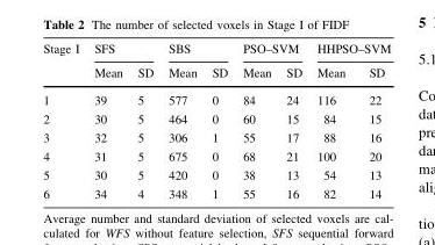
<table><thead><tr><td rowspan="2">Stage I</td><td colspan="2">SFS</td><td colspan="2">SBS</td><td colspan="2">PSO–SVM</td><td colspan="2">HHPSO–SVM</td></tr><tr><td>Mean</td><td>SD</td><td>Mean</td><td>SD</td><td>Mean</td><td>SD</td><td>Mean</td><td>SD</td></tr></thead><tbody><tr><td>1</td><td>39</td><td>5</td><td>577</td><td>0</td><td>84</td><td>24</td><td>116</td><td>22</td></tr><tr><td>2</td><td>30</td><td>5</td><td>464</td><td>0</td><td>60</td><td>15</td><td>84</td><td>15</td></tr><tr><td>3</td><td>32</td><td>5</td><td>306</td><td>1</td><td>55</td><td>17</td><td>88</td><td>16</td></tr><tr><td>4</td><td>31</td><td>5</td><td>675</td><td>0</td><td>68</td><td>21</td><td>100</td><td>20</td></tr><tr><td>5</td><td>30</td><td>5</td><td>420</td><td>0</td><td>38</td><td>13</td><td>54</td><td>13</td></tr><tr><td>6</td><td>34</td><td>4</td><td>348</td><td>1</td><td>55</td><td>16</td><td>82</td><td>14</td></tr></tbody></table>